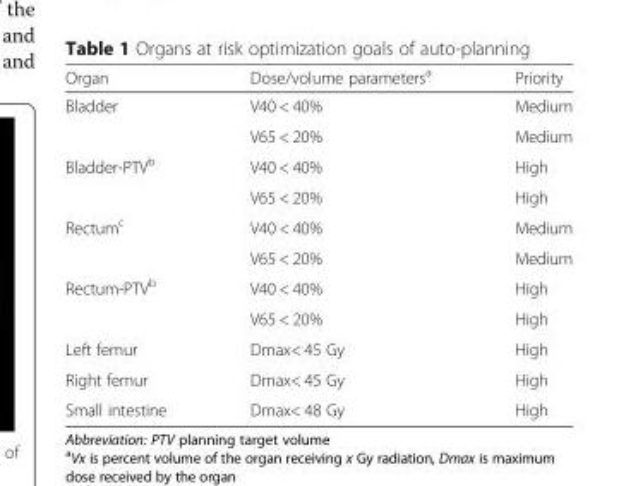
<table><thead><tr><td>Organ</td><td>Dose/volume parameters<sup>a</sup></td><td>Priority</td></tr></thead><tbody><tr><td rowspan="2">Bladder</td><td>V40 &lt; 40%</td><td>Medium</td></tr><tr><td>V65 &lt; 20%</td><td>Medium</td></tr><tr><td rowspan="2">Bladder-PTV<sup>b</sup></td><td>V40 &lt; 40%</td><td>High</td></tr><tr><td>V65 &lt; 20%</td><td>High</td></tr><tr><td rowspan="2">Rectum<sup>c</sup></td><td>V40 &lt; 40%</td><td>Medium</td></tr><tr><td>V65 &lt; 20%</td><td>Medium</td></tr><tr><td rowspan="2">Rectum-PTV<sup>b</sup></td><td>V40 &lt; 40%</td><td>High</td></tr><tr><td>V65 &lt; 20%</td><td>High</td></tr><tr><td>Left femur</td><td>Dmax&lt; 45 Gy</td><td>High</td></tr><tr><td>Right femur</td><td>Dmax&lt; 45 Gy</td><td>High</td></tr><tr><td>Small intestine</td><td>Dmax&lt; 48 Gy</td><td>High</td></tr></tbody></table>